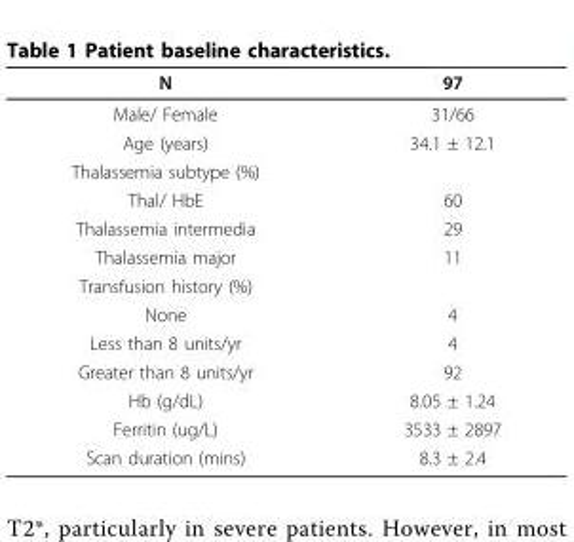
<table><thead><tr><td>N</td><td>97</td></tr></thead><tbody><tr><td>Male/ Female</td><td>31/66</td></tr><tr><td>Age (years)</td><td>34.1 ± 12.1</td></tr><tr><td colspan="2">Thalassemia subtype (%)</td></tr><tr><td>Thal/ HbE</td><td>60</td></tr><tr><td>Thalassemia intermedia</td><td>29</td></tr><tr><td>Thalassemia major</td><td>11</td></tr><tr><td colspan="2">Transfusion history (%)</td></tr><tr><td>None</td><td>4</td></tr><tr><td>Less than 8 units/yr</td><td>4</td></tr><tr><td>Greater than 8 units/yr</td><td>92</td></tr><tr><td>Hb (g/dL)</td><td>8.05 ± 1.24</td></tr><tr><td>Ferritin (ug/L)</td><td>3533 ± 2897</td></tr><tr><td>Scan duration (mins)</td><td>8.3 ± 2.4</td></tr></tbody></table>